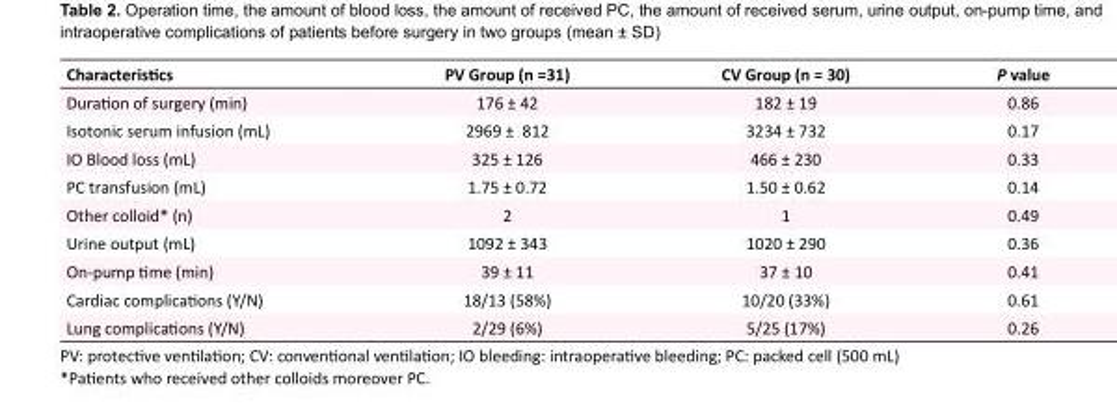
<table><tbody><tr><td>Characteristics</td><td>PV Group (n =31)</td><td>CV Group (n = 30)</td><td>P value</td></tr><tr><td>Duration of surgery (min)</td><td>176 ± 42</td><td>182 ± 19</td><td>0.86</td></tr><tr><td>Isotonic serum infusion (mL)</td><td>2969 ± 812</td><td>3234 ± 732</td><td>0.17</td></tr><tr><td>IO Blood loss (mL)</td><td>325 ± 126</td><td>466 ± 230</td><td>0.33</td></tr><tr><td>PC transfusion (mL)</td><td>1.75 ± 0.72</td><td>1.50 ± 0.62</td><td>0.14</td></tr><tr><td>Other colloid* (n)</td><td>2</td><td>1</td><td>0.49</td></tr><tr><td>Urine output (mL)</td><td>1092 ± 343</td><td>1020 ± 290</td><td>0.36</td></tr><tr><td>On-pump time (min)</td><td>39 ± 11</td><td>37 ± 10</td><td>0.41</td></tr><tr><td>Cardiac complications (Y/N)</td><td>18/13 (58%)</td><td>10/20 (33%)</td><td>0.61</td></tr><tr><td>Lung complications (Y/N)</td><td>2/29 (6%)</td><td>5/25 (17%)</td><td>0.26</td></tr></tbody></table>